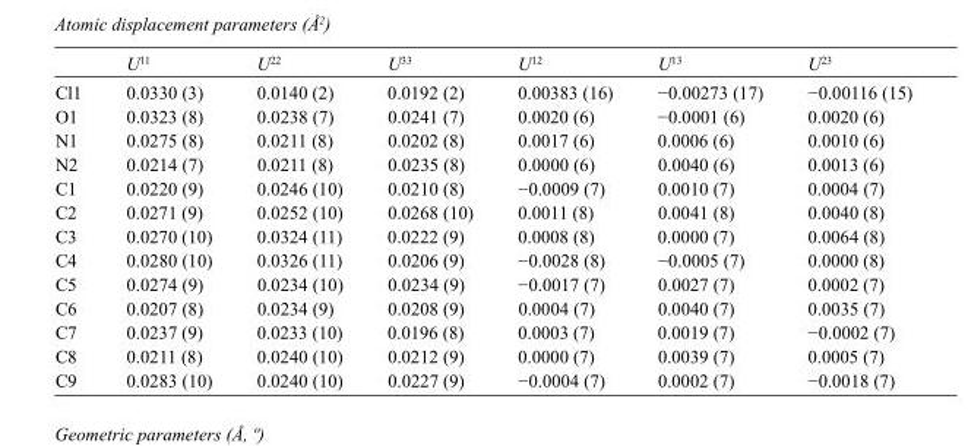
<table><thead><tr><td></td><td>U<sup>11</sup></td><td>U<sup>22</sup></td><td>U<sup>33</sup></td><td>U<sup>12</sup></td><td>U<sup>13</sup></td><td>U<sup>23</sup></td></tr></thead><tbody><tr><td>Cl1</td><td>0.0330 (3)</td><td>0.0140 (2)</td><td>0.0192 (2)</td><td>0.00383 (16)</td><td>−0.00273 (17)</td><td>−0.00116 (15)</td></tr><tr><td>O1</td><td>0.0323 (8)</td><td>0.0238 (7)</td><td>0.0241 (7)</td><td>0.0020 (6)</td><td>−0.0001 (6)</td><td>0.0020 (6)</td></tr><tr><td>N1</td><td>0.0275 (8)</td><td>0.0211 (8)</td><td>0.0202 (8)</td><td>0.0017 (6)</td><td>0.0006 (6)</td><td>0.0010 (6)</td></tr><tr><td>N2</td><td>0.0214 (7)</td><td>0.0211 (8)</td><td>0.0235 (8)</td><td>0.0000 (6)</td><td>0.0040 (6)</td><td>0.0013 (6)</td></tr><tr><td>C1</td><td>0.0220 (9)</td><td>0.0246 (10)</td><td>0.0210 (8)</td><td>−0.0009 (7)</td><td>0.0010 (7)</td><td>0.0004 (7)</td></tr><tr><td>C2</td><td>0.0271 (9)</td><td>0.0252 (10)</td><td>0.0268 (10)</td><td>0.0011 (8)</td><td>0.0041 (8)</td><td>0.0040 (8)</td></tr><tr><td>C3</td><td>0.0270 (10)</td><td>0.0324 (11)</td><td>0.0222 (9)</td><td>0.0008 (8)</td><td>0.0000 (7)</td><td>0.0064 (8)</td></tr><tr><td>C4</td><td>0.0280 (10)</td><td>0.0326 (11)</td><td>0.0206 (9)</td><td>−0.0028 (8)</td><td>−0.0005 (7)</td><td>0.0000 (8)</td></tr><tr><td>C5</td><td>0.0274 (9)</td><td>0.0234 (10)</td><td>0.0234 (9)</td><td>−0.0017 (7)</td><td>0.0027 (7)</td><td>0.0002 (7)</td></tr><tr><td>C6</td><td>0.0207 (8)</td><td>0.0234 (9)</td><td>0.0208 (9)</td><td>0.0004 (7)</td><td>0.0040 (7)</td><td>0.0035 (7)</td></tr><tr><td>C7</td><td>0.0237 (9)</td><td>0.0233 (10)</td><td>0.0196 (8)</td><td>0.0003 (7)</td><td>0.0019 (7)</td><td>−0.0002 (7)</td></tr><tr><td>C8</td><td>0.0211 (8)</td><td>0.0240 (10)</td><td>0.0212 (9)</td><td>0.0000 (7)</td><td>0.0039 (7)</td><td>0.0005 (7)</td></tr><tr><td>C9</td><td>0.0283 (10)</td><td>0.0240 (10)</td><td>0.0227 (9)</td><td>−0.0004 (7)</td><td>0.0002 (7)</td><td>−0.0018 (7)</td></tr></tbody></table>